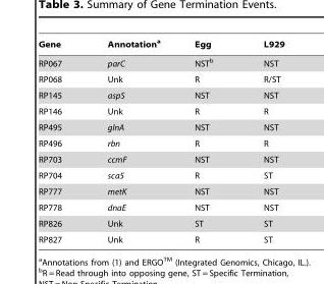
<table><thead><tr><td>Gene</td><td>Annotation<sup>a</sup></td><td>Egg</td><td>L929</td></tr></thead><tbody><tr><td>RP067</td><td>parC</td><td>NST<sup>b</sup></td><td>NST</td></tr><tr><td>RP068</td><td>Unk</td><td>R</td><td>R/ST</td></tr><tr><td>RP145</td><td>aspS</td><td>NST</td><td>NST</td></tr><tr><td>RP146</td><td>Unk</td><td>R</td><td>R</td></tr><tr><td>RP495</td><td>glnA</td><td>NST</td><td>NST</td></tr><tr><td>RP496</td><td>rbn</td><td>R</td><td>R</td></tr><tr><td>RP703</td><td>ccmF</td><td>NST</td><td>NST</td></tr><tr><td>RP704</td><td>sca5</td><td>R</td><td>ST</td></tr><tr><td>RP777</td><td>metK</td><td>NST</td><td>NST</td></tr><tr><td>RP778</td><td>dnaE</td><td>NST</td><td>NST</td></tr><tr><td>RP826</td><td>Unk</td><td>ST</td><td>ST</td></tr><tr><td>RP827</td><td>Unk</td><td>R</td><td>ST</td></tr></tbody></table>